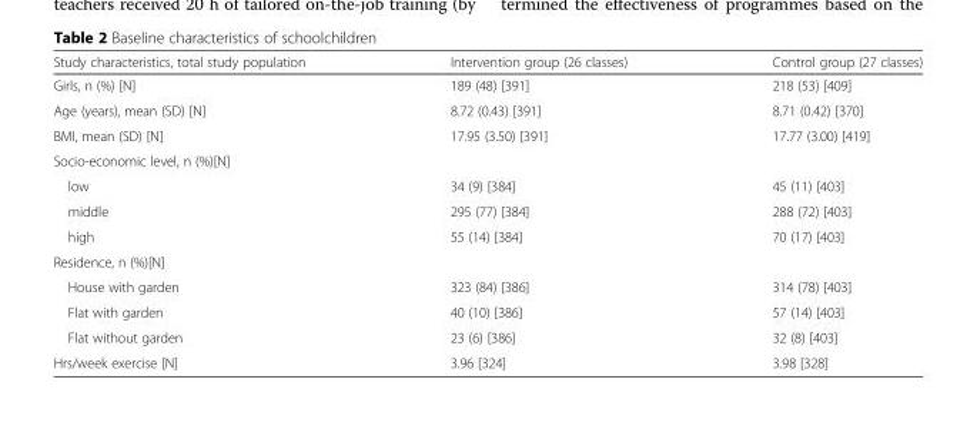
<table><thead><tr><td>Study characteristics, total study population</td><td>Intervention group (26 classes)</td><td>Control group (27 classes)</td></tr></thead><tbody><tr><td>Girls, n (%) [N]</td><td>189 (48) [391]</td><td>218 (53) [409]</td></tr><tr><td>Age (years), mean (SD) [N]</td><td>8.72 (0.43) [391]</td><td>8.71 (0.42) [370]</td></tr><tr><td>BMI, mean (SD) [N]</td><td>17.95 (3.50) [391]</td><td>17.77 (3.00) [419]</td></tr><tr><td colspan="3">Socio-economic level, n (%)[N]</td></tr><tr><td>low</td><td>34 (9) [384]</td><td>45 (11) [403]</td></tr><tr><td>middle</td><td>295 (77) [384]</td><td>288 (72) [403]</td></tr><tr><td>high</td><td>55 (14) [384]</td><td>70 (17) [403]</td></tr><tr><td colspan="3">Residence, n (%)[N]</td></tr><tr><td>House with garden</td><td>323 (84) [386]</td><td>314 (78) [403]</td></tr><tr><td>Flat with garden</td><td>40 (10) [386]</td><td>57 (14) [403]</td></tr><tr><td>Flat without garden</td><td>23 (6) [386]</td><td>32 (8) [403]</td></tr><tr><td>Hrs/week exercise [N]</td><td>3.96 [324]</td><td>3.98 [328]</td></tr></tbody></table>